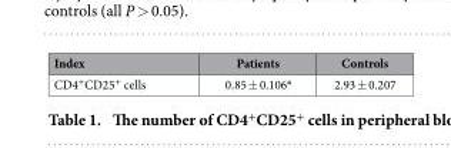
<table><thead><tr><td>Index</td><td>Patients</td><td>Controls</td></tr></thead><tbody><tr><td>CD4<sup>+</sup>CD25<sup>+</sup> cells</td><td>0.85 ± 0.106<sup>a</sup></td><td>2.93 ± 0.207</td></tr></tbody></table>